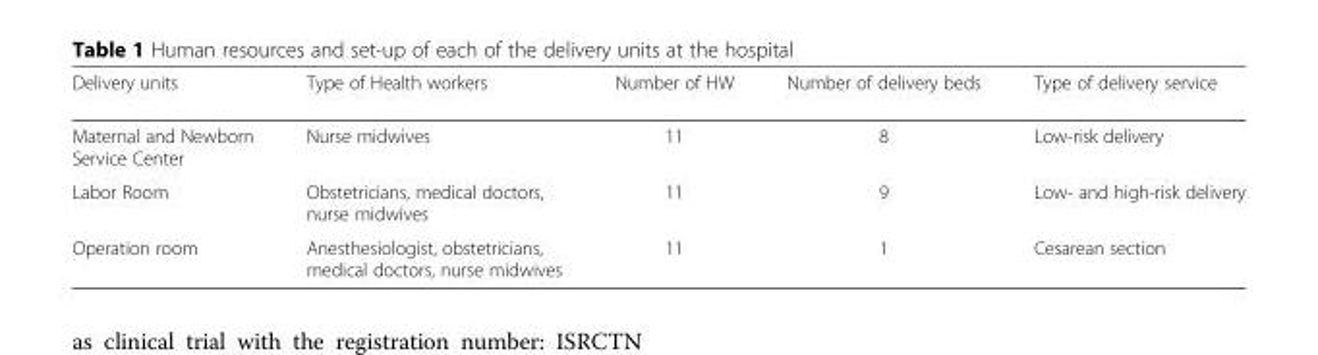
<table><thead><tr><td>Delivery units</td><td>Type of Health workers</td><td>Number of HW</td><td>Number of delivery beds</td><td>Type of delivery service</td></tr></thead><tbody><tr><td>Maternal and Newborn Service Center</td><td>Nurse midwives</td><td>11</td><td>8</td><td>Low-risk delivery</td></tr><tr><td>Labor Room</td><td>Obstetricians, medical doctors, nurse midwives</td><td>11</td><td>9</td><td>Low- and high-risk delivery</td></tr><tr><td>Operation room</td><td>Anesthesiologist, obstetricians, medical doctors, nurse midwives</td><td>11</td><td>1</td><td>Cesarean section</td></tr></tbody></table>